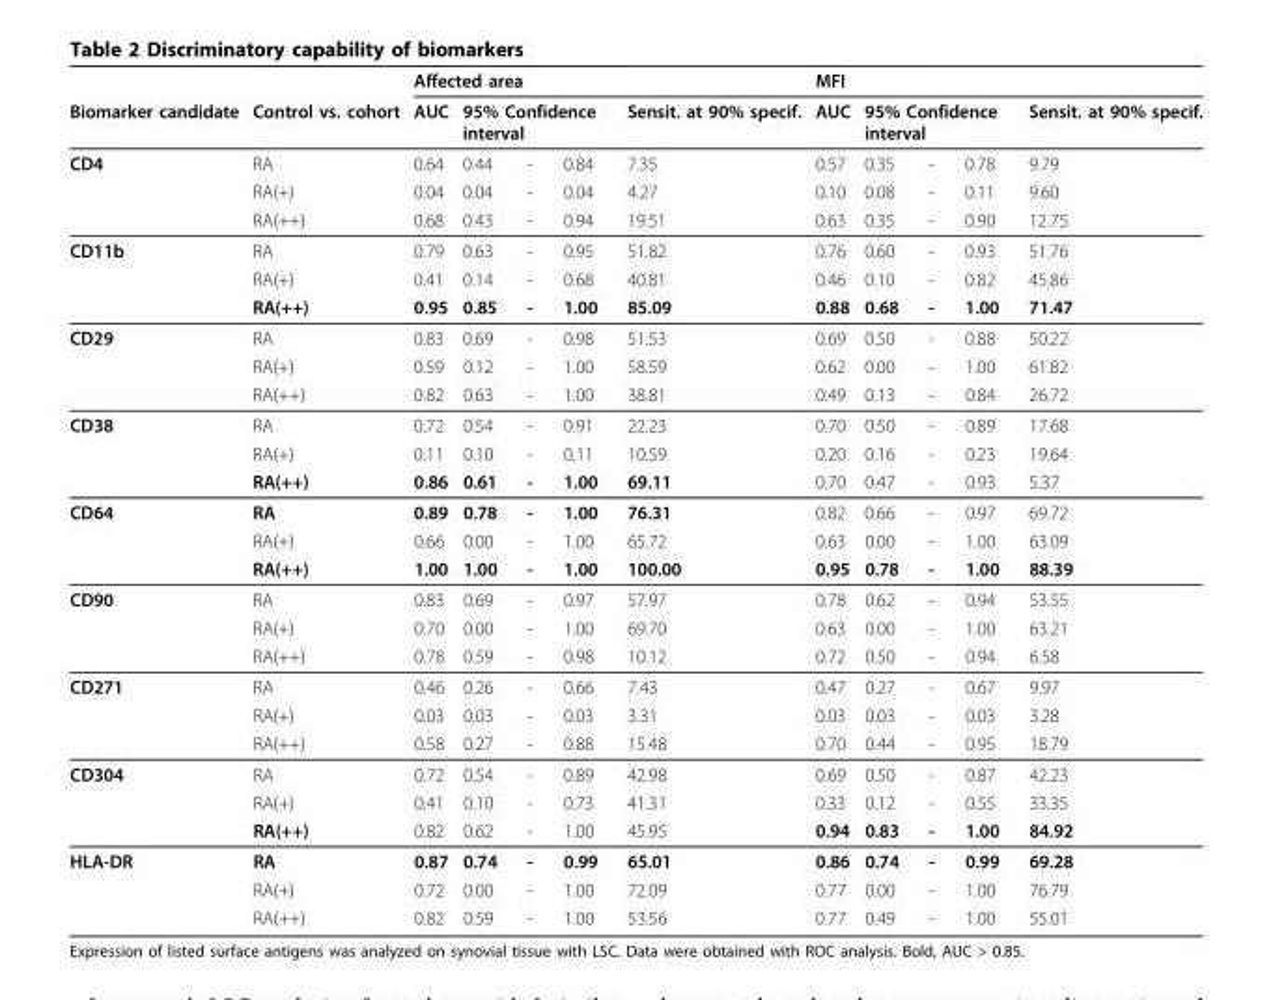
<table><thead><tr><td rowspan="3">Biomarker candidate CD4</td><td rowspan="3">Control vs. cohort RA</td><td colspan="5">Affected area</td><td colspan="5">MFI</td></tr><tr><td rowspan="2">AUC 0.64</td><td colspan="3">95% Confidence interval</td><td rowspan="2">Sensit. at 90% specif. 7.35</td><td rowspan="2">AUC 0.57</td><td colspan="3">95% Confidence interval</td><td rowspan="2">Sensit. at 90% specif. 9.79</td></tr><tr><td>0.44</td><td>-</td><td>0.84</td><td>0.35</td><td>-</td><td>0.78</td></tr></thead><tbody><tr><td></td><td>RA(+)</td><td>0.04</td><td>0.04</td><td>-</td><td>0.04</td><td>4.27</td><td>0.10</td><td>0.08</td><td>-</td><td>0.11</td><td>9.60</td></tr><tr><td></td><td>RA(++)</td><td>0.68</td><td>0.43</td><td>-</td><td>0.94</td><td>19.51</td><td>0.63</td><td>0.35</td><td>-</td><td>0.90</td><td>12.75</td></tr><tr><td rowspan="3">CD11b</td><td>RA</td><td>0.79</td><td>0.63</td><td>-</td><td>0.95</td><td>51.82</td><td>0.76</td><td>0.60</td><td>-</td><td>0.93</td><td>51.76</td></tr><tr><td>RA(+)</td><td>0.41</td><td>0.14</td><td>-</td><td>0.68</td><td>40.81</td><td>0.46</td><td>0.10</td><td>-</td><td>0.82</td><td>45.86</td></tr><tr><td>RA(++)</td><td>0.95</td><td>0.85</td><td>-</td><td>1.00</td><td>85.09</td><td>0.88</td><td>0.68</td><td>-</td><td>1.00</td><td>71.47</td></tr><tr><td rowspan="3">CD29</td><td>RA</td><td>0.83</td><td>0.69</td><td>-</td><td>0.98</td><td>51.53</td><td>0.69</td><td>0.50</td><td>-</td><td>0.88</td><td>50.22</td></tr><tr><td>RA(+)</td><td>0.59</td><td>0.12</td><td>-</td><td>1.00</td><td>58.59</td><td>0.62</td><td>0.00</td><td>-</td><td>1.00</td><td>61.82</td></tr><tr><td>RA(++)</td><td>0.82</td><td>0.63</td><td>-</td><td>1.00</td><td>38.81</td><td>0.49</td><td>0.13</td><td>-</td><td>0.84</td><td>26.72</td></tr><tr><td rowspan="3">CD38</td><td>RA</td><td>0.72</td><td>0.54</td><td>-</td><td>0.91</td><td>22.23</td><td>0.70</td><td>0.50</td><td>-</td><td>0.89</td><td>17.68</td></tr><tr><td>RA(+)</td><td>0.11</td><td>0.10</td><td>-</td><td>0.11</td><td>10.59</td><td>0.20</td><td>0.16</td><td>-</td><td>0.23</td><td>19.64</td></tr><tr><td>RA(++)</td><td>0.86</td><td>0.61</td><td>-</td><td>1.00</td><td>69.11</td><td>0.70</td><td>0.47</td><td>-</td><td>0.93</td><td>5.37</td></tr><tr><td rowspan="3">CD64</td><td>RA</td><td>0.89</td><td>0.78</td><td>-</td><td>1.00</td><td>76.31</td><td>0.82</td><td>0.66</td><td>-</td><td>0.97</td><td>69.72</td></tr><tr><td>RA(+)</td><td>0.66</td><td>0.00</td><td>-</td><td>1.00</td><td>65.72</td><td>0.63</td><td>0.00</td><td>-</td><td>1.00</td><td>63.09</td></tr><tr><td>RA(++)</td><td>1.00</td><td>1.00</td><td>-</td><td>1.00</td><td>100.00</td><td>0.95</td><td>0.78</td><td>-</td><td>1.00</td><td>88.39</td></tr><tr><td rowspan="3">CD90</td><td>RA</td><td>0.83</td><td>0.69</td><td>-</td><td>0.97</td><td>57.97</td><td>0.78</td><td>0.62</td><td>-</td><td>0.94</td><td>53.55</td></tr><tr><td>RA(+)</td><td>0.70</td><td>0.00</td><td>-</td><td>1.00</td><td>69.70</td><td>0.63</td><td>0.00</td><td>-</td><td>1.00</td><td>63.21</td></tr><tr><td>RA(++)</td><td>0.78</td><td>0.59</td><td>-</td><td>0.98</td><td>10.12</td><td>0.72</td><td>0.50</td><td>-</td><td>0.94</td><td>6.58</td></tr><tr><td rowspan="3">CD271</td><td>RA</td><td>0.46</td><td>0.26</td><td>-</td><td>0.66</td><td>7.43</td><td>0.47</td><td>0.27</td><td>-</td><td>0.67</td><td>9.97</td></tr><tr><td>RA(+)</td><td>0.03</td><td>0.03</td><td>-</td><td>0.03</td><td>3.31</td><td>0.03</td><td>0.03</td><td>-</td><td>0.03</td><td>3.28</td></tr><tr><td>RA(++)</td><td>0.58</td><td>0.27</td><td>-</td><td>0.88</td><td>15.48</td><td>0.70</td><td>0.44</td><td>-</td><td>0.95</td><td>18.79</td></tr><tr><td rowspan="3">CD304</td><td>RA</td><td>0.72</td><td>0.54</td><td>-</td><td>0.89</td><td>42.98</td><td>0.69</td><td>0.50</td><td>-</td><td>0.87</td><td>42.23</td></tr><tr><td>RA(+)</td><td>0.41</td><td>0.10</td><td>-</td><td>0.73</td><td>41.31</td><td>0.33</td><td>0.12</td><td>-</td><td>0.55</td><td>33.35</td></tr><tr><td>RA(++)</td><td>0.82</td><td>0.62</td><td>-</td><td>1.00</td><td>45.95</td><td>0.94</td><td>0.83</td><td>-</td><td>1.00</td><td>84.92</td></tr><tr><td rowspan="3">HLA-DR</td><td>RA</td><td>0.87</td><td>0.74</td><td>-</td><td>0.99</td><td>65.01</td><td>0.86</td><td>0.74</td><td>-</td><td>0.99</td><td>69.28</td></tr><tr><td>RA(+)</td><td>0.72</td><td>0.00</td><td>-</td><td>1.00</td><td>72.09</td><td>0.77</td><td>0.00</td><td>-</td><td>1.00</td><td>76.79</td></tr><tr><td>RA(++)</td><td>0.82</td><td>0.59</td><td>-</td><td>1.00</td><td>53.56</td><td>0.77</td><td>0.49</td><td>-</td><td>1.00</td><td>55.01</td></tr></tbody></table>